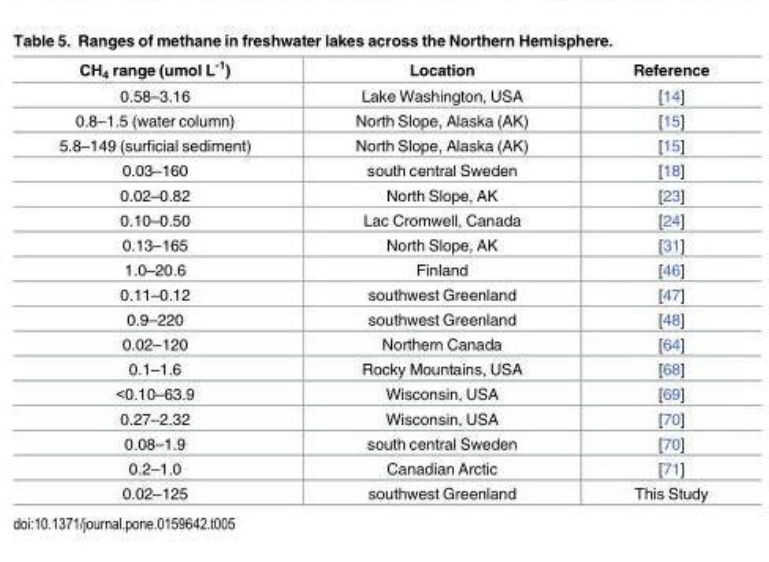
<table><thead><tr><td>CH<sub>4</sub> range (umol L<sup>-1</sup>)</td><td>Location</td><td>Reference</td></tr></thead><tbody><tr><td>0.58–3.16</td><td>Lake Washington, USA</td><td>[14]</td></tr><tr><td>0.8–1.5 (water column)</td><td>North Slope, Alaska (AK)</td><td>[15]</td></tr><tr><td>5.8–149 (surficial sediment)</td><td>North Slope, Alaska (AK)</td><td>[15]</td></tr><tr><td>0.03–160</td><td>south central Sweden</td><td>[18]</td></tr><tr><td>0.02–0.82</td><td>North Slope, AK</td><td>[23]</td></tr><tr><td>0.10–0.50</td><td>Lac Cromwell, Canada</td><td>[24]</td></tr><tr><td>0.13–165</td><td>North Slope, AK</td><td>[31]</td></tr><tr><td>1.0–20.6</td><td>Finland</td><td>[46]</td></tr><tr><td>0.11–0.12</td><td>southwest Greenland</td><td>[47]</td></tr><tr><td>0.9–220</td><td>southwest Greenland</td><td>[48]</td></tr><tr><td>0.02–120</td><td>Northern Canada</td><td>[64]</td></tr><tr><td>0.1–1.6</td><td>Rocky Mountains, USA</td><td>[68]</td></tr><tr><td>&lt;0.10–63.9</td><td>Wisconsin, USA</td><td>[69]</td></tr><tr><td>0.27–2.32</td><td>Wisconsin, USA</td><td>[70]</td></tr><tr><td>0.08–1.9</td><td>south central Sweden</td><td>[70]</td></tr><tr><td>0.2–1.0</td><td>Canadian Arctic</td><td>[71]</td></tr><tr><td>0.02–125</td><td>southwest Greenland</td><td>This Study</td></tr></tbody></table>